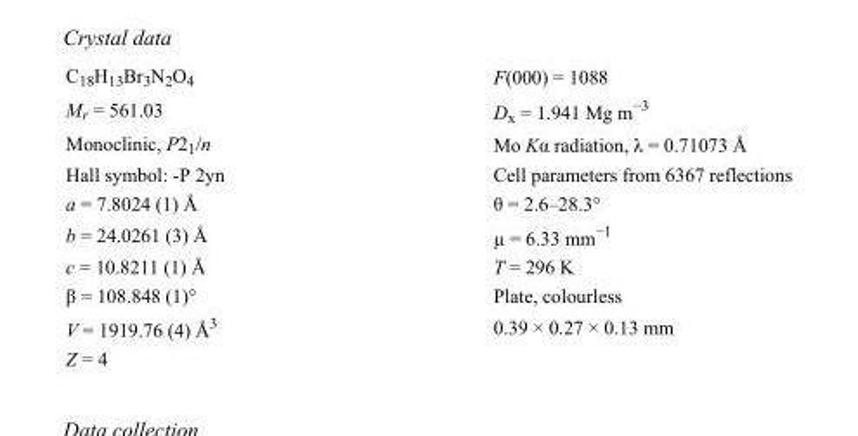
<table><tbody><tr><td>C<sub>18</sub>H<sub>13</sub>Br<sub>3</sub>N<sub>2</sub>O<sub>4</sub></td><td>F(000) = 1088</td></tr><tr><td>M<sub>r</sub> = 561.03</td><td>D<sub>x</sub> = 1.941 Mg m<sup>−3</sup></td></tr><tr><td>Monoclinic, P2<sub>1</sub>/n</td><td>Mo Kα radiation, λ = 0.71073 Å</td></tr><tr><td>Hall symbol: -P 2yn</td><td>Cell parameters from 6367 reflections</td></tr><tr><td>a = 7.8024 (1) Å</td><td>θ = 2.6–28.3°</td></tr><tr><td>b = 24.0261 (3) Å</td><td>µ = 6.33 mm<sup>−1</sup></td></tr><tr><td>c = 10.8211 (1) Å</td><td>T = 296 K</td></tr><tr><td>β = 108.848 (1)°</td><td>Plate, colourless</td></tr><tr><td>V = 1919.76 (4) Å<sup>3</sup></td><td>0.39 × 0.27 × 0.13 mm</td></tr><tr><td>Z = 4</td><td></td></tr></tbody></table>